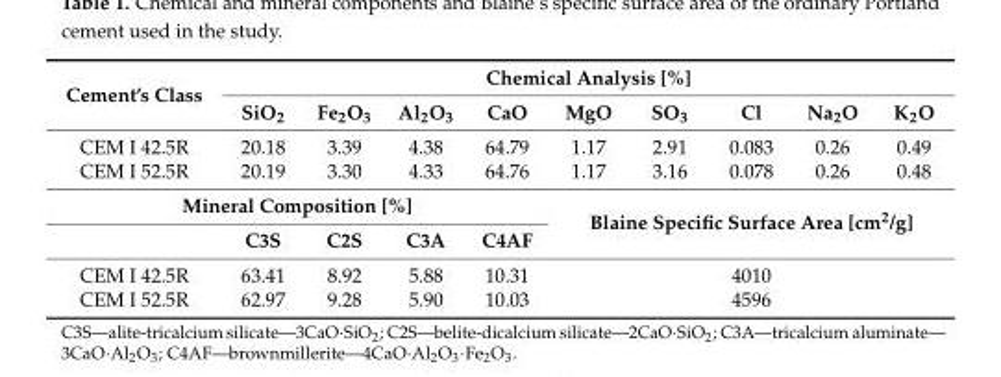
<table><tbody><tr><td rowspan="2">Cement’s Class</td><td colspan="9">Chemical Analysis [%]</td></tr><tr><td>SiO<sub>2</sub></td><td>Fe<sub>2</sub>O<sub>3</sub></td><td>Al<sub>2</sub>O<sub>3</sub></td><td>CaO</td><td>MgO</td><td>SO<sub>3</sub></td><td>Cl</td><td>Na<sub>2</sub>O</td><td>K<sub>2</sub>O</td></tr><tr><td>CEM I 42.5R</td><td>20.18</td><td>3.39</td><td>4.38</td><td>64.79</td><td>1.17</td><td>2.91</td><td>0.083</td><td>0.26</td><td>0.49</td></tr><tr><td>CEM I 52.5R</td><td>20.19</td><td>3.30</td><td>4.33</td><td>64.76</td><td>1.17</td><td>3.16</td><td>0.078</td><td>0.26</td><td>0.48</td></tr><tr><td colspan="5">Mineral Composition [%]</td><td rowspan="2" colspan="5">Blaine Specific Surface Area [cm<sup>2</sup>/g]</td></tr><tr><td></td><td>C3S</td><td>C2S</td><td>C3A</td><td>C4AF</td></tr><tr><td>CEM I 42.5R</td><td>63.41</td><td>8.92</td><td>5.88</td><td>10.31</td><td colspan="5">4010</td></tr><tr><td>CEM I 52.5R</td><td>62.97</td><td>9.28</td><td>5.90</td><td>10.03</td><td colspan="5">4596</td></tr></tbody></table>